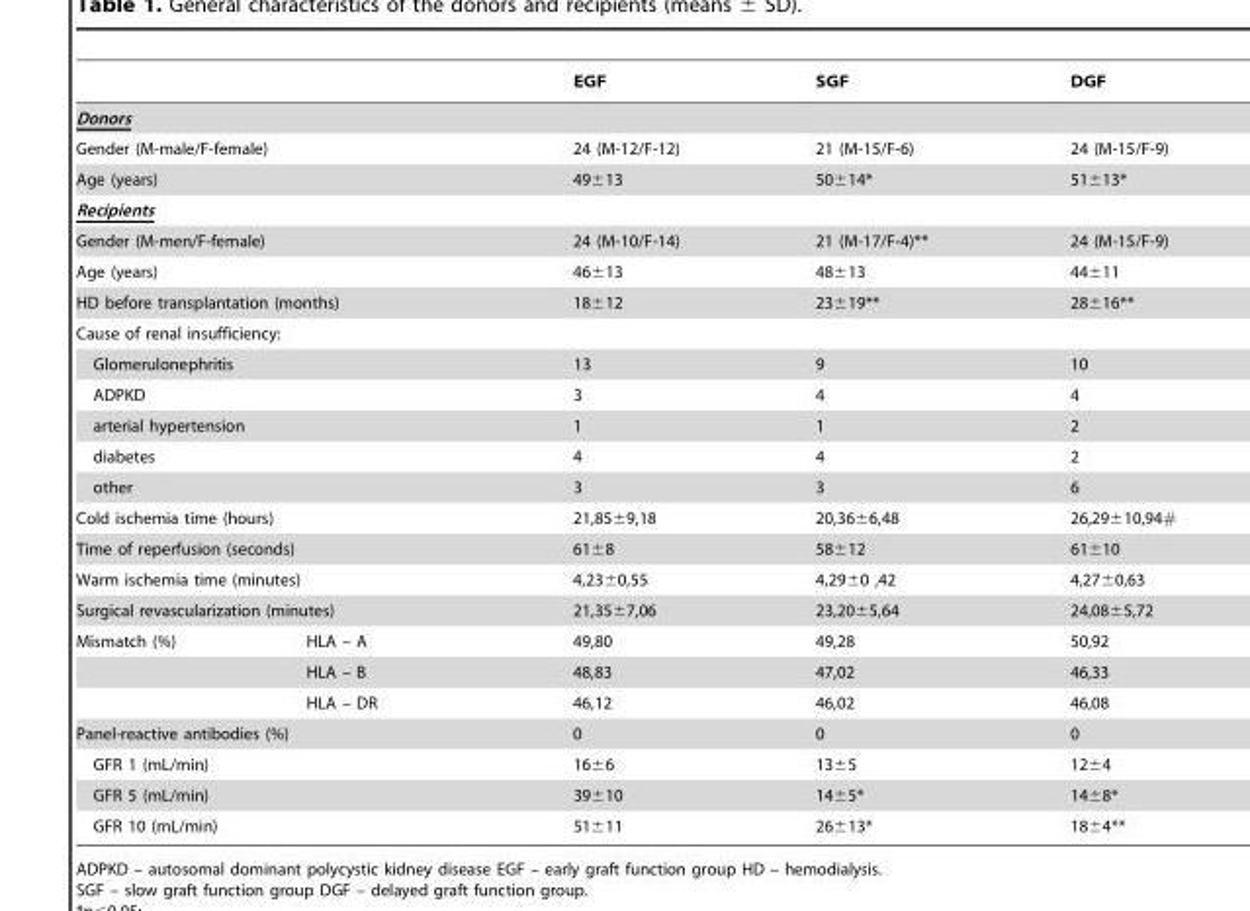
<table><thead><tr><td></td><td></td><td>EGF</td><td>SGF</td><td>DGF</td></tr></thead><tbody><tr><td colspan="5">Donors</td></tr><tr><td colspan="2">Gender (M-male/F-female)</td><td>24 (M-12/F-12)</td><td>21 (M-15/F-6)</td><td>24 (M-15/F-9)</td></tr><tr><td colspan="2">Age (years)</td><td>49±13</td><td>50±14*</td><td>51±13*</td></tr><tr><td colspan="5">Recipients</td></tr><tr><td colspan="2">Gender (M-men/F-female)</td><td>24 (M-10/F-14)</td><td>21 (M-17/F-4)**</td><td>24 (M-15/F-9)</td></tr><tr><td colspan="2">Age (years)</td><td>46±13</td><td>48±13</td><td>44±11</td></tr><tr><td colspan="2">HD before transplantation (months)</td><td>18±12</td><td>23±19**</td><td>28±16**</td></tr><tr><td colspan="5">Cause of renal insufficiency:</td></tr><tr><td colspan="2">Glomerulonephritis</td><td>13</td><td>9</td><td>10</td></tr><tr><td colspan="2">ADPKD</td><td>3</td><td>4</td><td>4</td></tr><tr><td colspan="2">arterial hypertension</td><td>1</td><td>1</td><td>2</td></tr><tr><td colspan="2">diabetes</td><td>4</td><td>4</td><td>2</td></tr><tr><td colspan="2">other</td><td>3</td><td>3</td><td>6</td></tr><tr><td colspan="2">Cold ischemia time (hours)</td><td>21,85±9,18</td><td>20,36±6,48</td><td>26,29±10,94#</td></tr><tr><td colspan="2">Time of reperfusion (seconds)</td><td>61±8</td><td>58±12</td><td>61±10</td></tr><tr><td colspan="2">Warm ischemia time (minutes)</td><td>4,23±0,55</td><td>4,29±0 ,42</td><td>4,27±0,63</td></tr><tr><td colspan="2">Surgical revascularization (minutes)</td><td>21,35±7,06</td><td>23,20±5,64</td><td>24,08±5,72</td></tr><tr><td rowspan="3">Mismatch (%)</td><td>HLA – A</td><td>49,80</td><td>49,28</td><td>50,92</td></tr><tr><td>HLA – B</td><td>48,83</td><td>47,02</td><td>46,33</td></tr><tr><td>HLA – DR</td><td>46,12</td><td>46,02</td><td>46,08</td></tr><tr><td colspan="2">Panel-reactive antibodies (%)</td><td>0</td><td>0</td><td>0</td></tr><tr><td colspan="2">GFR 1 (mL/min)</td><td>16±6</td><td>13±5</td><td>12±4</td></tr><tr><td colspan="2">GFR 5 (mL/min)</td><td>39±10</td><td>14±5*</td><td>14±8*</td></tr><tr><td colspan="2">GFR 10 (mL/min)</td><td>51±11</td><td>26±13*</td><td>18±4**</td></tr></tbody></table>